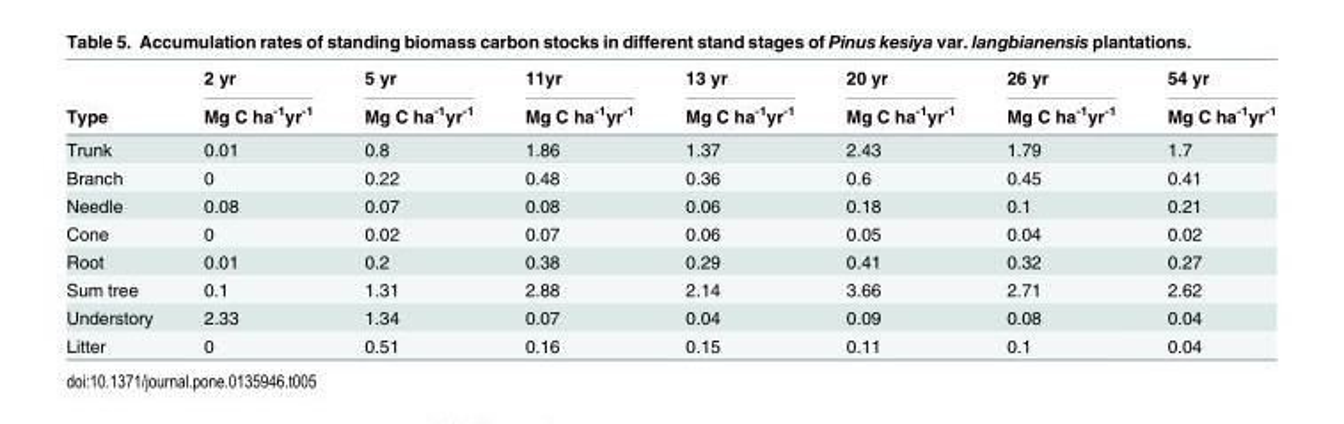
<table><thead><tr><td rowspan="2">Type</td><td rowspan="2">2 yr Mg C ha<sup>-1</sup>yr<sup>-1</sup></td><td rowspan="2">5 yr Mg C ha<sup>-1</sup>yr<sup>-1</sup></td><td rowspan="2">11yr Mg C ha<sup>-1</sup>yr<sup>-1</sup></td><td rowspan="2">13 yr Mg C ha<sup>-1</sup>yr<sup>-1</sup></td><td rowspan="2">20 yr Mg C ha<sup>-1</sup>yr<sup>-1</sup></td><td rowspan="2">26 yr Mg C ha<sup>-1</sup>yr<sup>-1</sup></td><td rowspan="2">54 yr Mg C ha<sup>-1</sup>yr<sup>-1</sup></td></tr><tr></tr></thead><tbody><tr><td>Trunk</td><td>0.01</td><td>0.8</td><td>1.86</td><td>1.37</td><td>2.43</td><td>1.79</td><td>1.7</td></tr><tr><td>Branch</td><td>0</td><td>0.22</td><td>0.48</td><td>0.36</td><td>0.6</td><td>0.45</td><td>0.41</td></tr><tr><td>Needle</td><td>0.08</td><td>0.07</td><td>0.08</td><td>0.06</td><td>0.18</td><td>0.1</td><td>0.21</td></tr><tr><td>Cone</td><td>0</td><td>0.02</td><td>0.07</td><td>0.06</td><td>0.05</td><td>0.04</td><td>0.02</td></tr><tr><td>Root</td><td>0.01</td><td>0.2</td><td>0.38</td><td>0.29</td><td>0.41</td><td>0.32</td><td>0.27</td></tr><tr><td>Sum tree</td><td>0.1</td><td>1.31</td><td>2.88</td><td>2.14</td><td>3.66</td><td>2.71</td><td>2.62</td></tr><tr><td>Understory</td><td>2.33</td><td>1.34</td><td>0.07</td><td>0.04</td><td>0.09</td><td>0.08</td><td>0.04</td></tr><tr><td>Litter</td><td>0</td><td>0.51</td><td>0.16</td><td>0.15</td><td>0.11</td><td>0.1</td><td>0.04</td></tr></tbody></table>